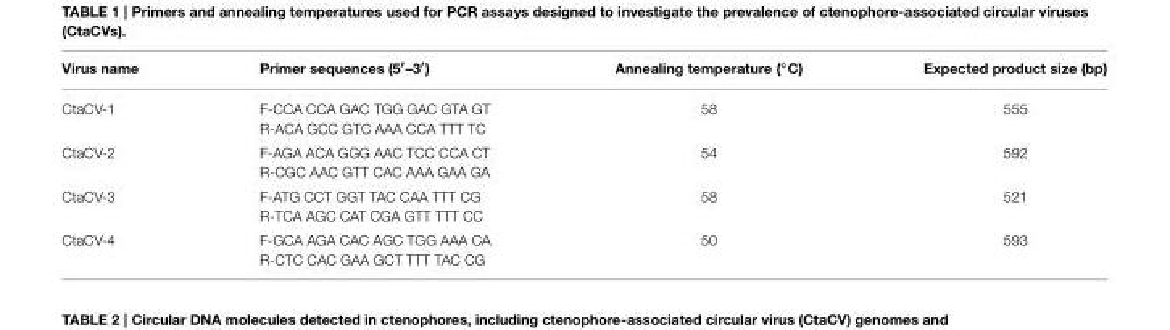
<table><thead><tr><td>Virus name</td><td>Primer sequences (5′–3′)</td><td>Annealing temperature (◦C)</td><td>Expected product size (bp)</td></tr></thead><tbody><tr><td>CtaCV-1</td><td>F-CCA CCA GAC TGG GAC GTA GT R-ACA GCC GTC AAA CCA TTT TC</td><td>58</td><td>555</td></tr><tr><td>CtaCV-2</td><td>F-AGA ACA GGG AAC TCC CCA CT R-CGC AAC GTT CAC AAA GAA GA</td><td>54</td><td>592</td></tr><tr><td>CtaCV-3</td><td>F-ATG CCT GGT TAC CAA TTT CG R-TCA AGC CAT CGA GTT TTT CC</td><td>58</td><td>521</td></tr><tr><td>CtaCV-4</td><td>F-GCA AGA CAC AGC TGG AAA CA R-CTC CAC GAA GCT TTT TAC CG</td><td>50</td><td>593</td></tr></tbody></table>